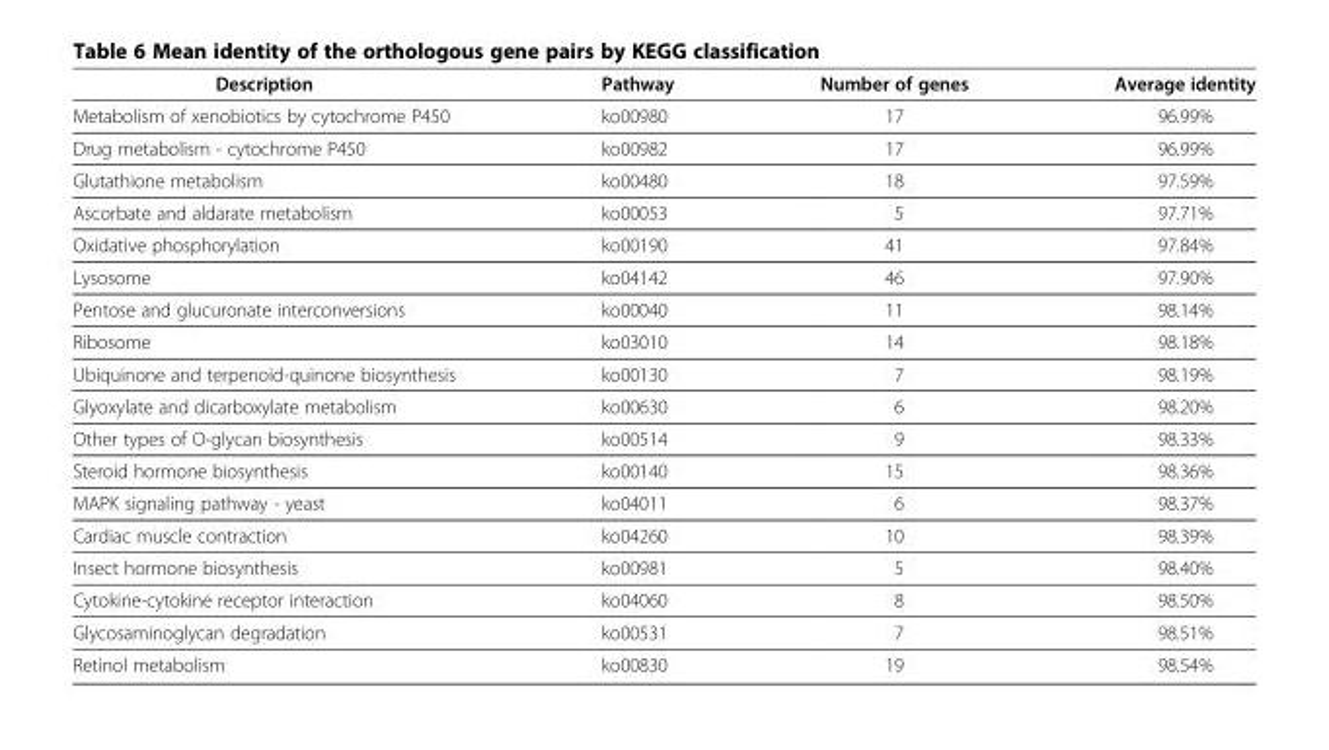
<table><thead><tr><td>Description</td><td>Pathway</td><td>Number of genes</td><td>Average identity</td></tr></thead><tbody><tr><td>Metabolism of xenobiotics by cytochrome P450</td><td>ko00980</td><td>17</td><td>96.99%</td></tr><tr><td>Drug metabolism - cytochrome P450</td><td>ko00982</td><td>17</td><td>96.99%</td></tr><tr><td>Glutathione metabolism</td><td>ko00480</td><td>18</td><td>97.59%</td></tr><tr><td>Ascorbate and aldarate metabolism</td><td>ko00053</td><td>5</td><td>97.71%</td></tr><tr><td>Oxidative phosphorylation</td><td>ko00190</td><td>41</td><td>97.84%</td></tr><tr><td>Lysosome</td><td>ko04142</td><td>46</td><td>97.90%</td></tr><tr><td>Pentose and glucuronate interconversions</td><td>ko00040</td><td>11</td><td>98.14%</td></tr><tr><td>Ribosome</td><td>ko03010</td><td>14</td><td>98.18%</td></tr><tr><td>Ubiquinone and terpenoid-quinone biosynthesis</td><td>ko00130</td><td>7</td><td>98.19%</td></tr><tr><td>Glyoxylate and dicarboxylate metabolism</td><td>ko00630</td><td>6</td><td>98.20%</td></tr><tr><td>Other types of O-glycan biosynthesis</td><td>ko00514</td><td>9</td><td>98.33%</td></tr><tr><td>Steroid hormone biosynthesis</td><td>ko00140</td><td>15</td><td>98.36%</td></tr><tr><td>MAPK signaling pathway - yeast</td><td>ko04011</td><td>6</td><td>98.37%</td></tr><tr><td>Cardiac muscle contraction</td><td>ko04260</td><td>10</td><td>98.39%</td></tr><tr><td>Insect hormone biosynthesis</td><td>ko00981</td><td>5</td><td>98.40%</td></tr><tr><td>Cytokine-cytokine receptor interaction</td><td>ko04060</td><td>8</td><td>98.50%</td></tr><tr><td>Glycosaminoglycan degradation</td><td>ko00531</td><td>7</td><td>98.51%</td></tr><tr><td>Retinol metabolism</td><td>ko00830</td><td>19</td><td>98.54%</td></tr></tbody></table>